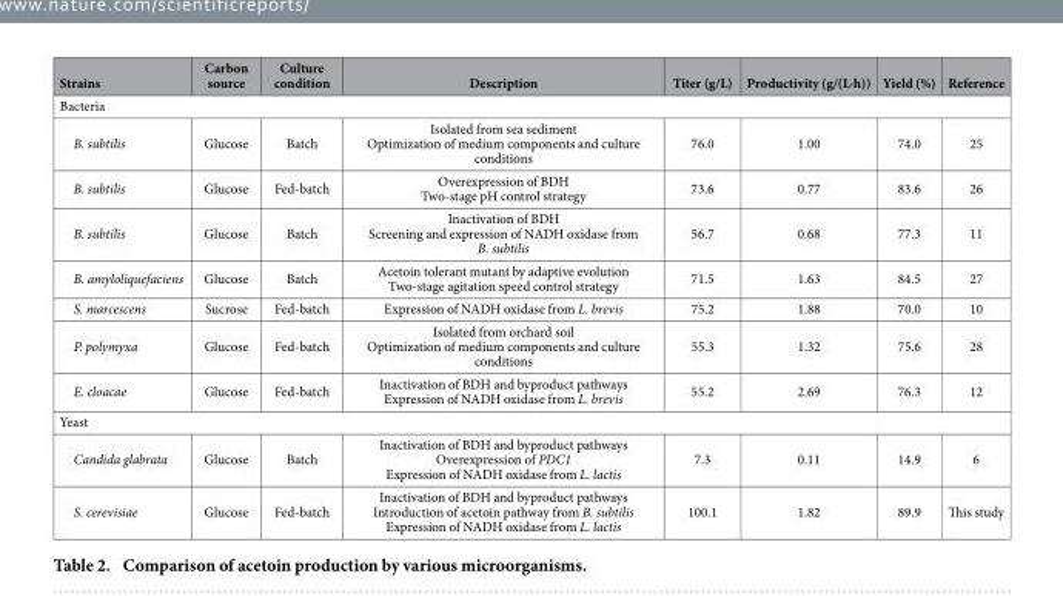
<table><thead><tr><td>Strains</td><td>Carbon source</td><td>Culture condition</td><td>Description</td><td>Titer (g/L)</td><td>Productivity (g/(L·h))</td><td>Yield (%)</td><td>Reference</td></tr></thead><tbody><tr><td colspan="8">Bacteria</td></tr><tr><td>B. subtilis</td><td>Glucose</td><td>Batch</td><td>Isolated from sea sediment Optimization of medium components and culture conditions</td><td>76.0</td><td>1.00</td><td>74.0</td><td>25</td></tr><tr><td>B. subtilis</td><td>Glucose</td><td>Fed-batch</td><td>Overexpression of BDH Two-stage pH control strategy</td><td>73.6</td><td>0.77</td><td>83.6</td><td>26</td></tr><tr><td>B. subtilis</td><td>Glucose</td><td>Batch</td><td>Inactivation of BDH Screening and expression of NADH oxidase from B. subtilis</td><td>56.7</td><td>0.68</td><td>77.3</td><td>11</td></tr><tr><td>B. amyloliquefaciens</td><td>Glucose</td><td>Batch</td><td>Acetoin tolerant mutant by adaptive evolution Two-stage agitation speed control strategy</td><td>71.5</td><td>1.63</td><td>84.5</td><td>27</td></tr><tr><td>S. marcescens</td><td>Sucrose</td><td>Fed-batch</td><td>Expression of NADH oxidase from L. brevis</td><td>75.2</td><td>1.88</td><td>70.0</td><td>10</td></tr><tr><td>P. polymyxa</td><td>Glucose</td><td>Fed-batch</td><td>Isolated from orchard soil Optimization of medium components and culture conditions</td><td>55.3</td><td>1.32</td><td>75.6</td><td>28</td></tr><tr><td>E. cloacae</td><td>Glucose</td><td>Fed-batch</td><td>Inactivation of BDH and byproduct pathways Expression of NADH oxidase from L. brevis</td><td>55.2</td><td>2.69</td><td>76.3</td><td>12</td></tr><tr><td colspan="8">Yeast</td></tr><tr><td>Candida glabrata</td><td>Glucose</td><td>Batch</td><td>Inactivation of BDH and byproduct pathways Overexpression of PDC1 Expression of NADH oxidase from L. lactis</td><td>7.3</td><td>0.11</td><td>14.9</td><td>6</td></tr><tr><td>S. cerevisiae</td><td>Glucose</td><td>Fed-batch</td><td>Inactivation of BDH and byproduct pathways Introduction of acetoin pathway from B. subtilis Expression of NADH oxidase from L. lactis</td><td>100.1</td><td>1.82</td><td>89.9</td><td>This study</td></tr></tbody></table>